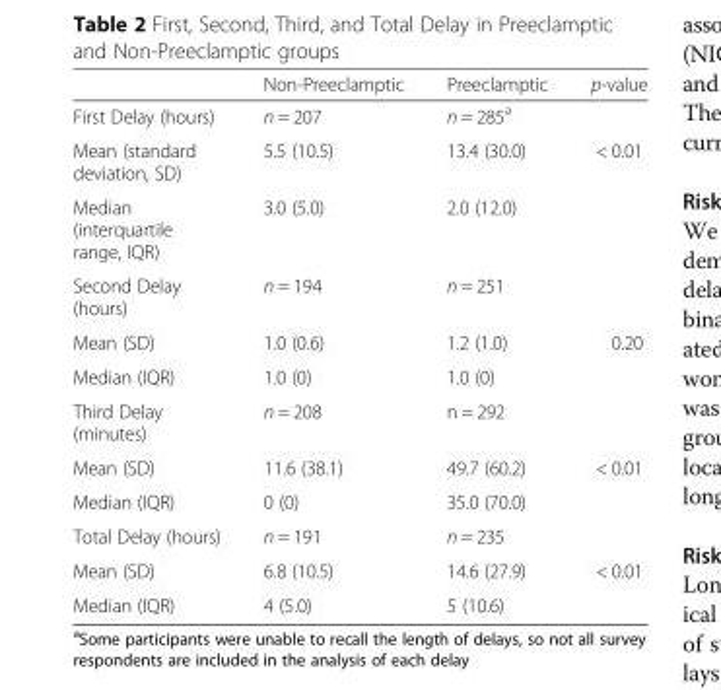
<table><thead><tr><td></td><td>Non-Preeclamptic</td><td>Preeclamptic</td><td>p-value</td></tr></thead><tbody><tr><td>First Delay (hours)</td><td>n = 207</td><td>n = 285<sup>a</sup></td><td></td></tr><tr><td>Mean (standard deviation, SD)</td><td>5.5 (10.5)</td><td>13.4 (30.0)</td><td>&lt; 0.01</td></tr><tr><td>Median (interquartile range, IQR)</td><td>3.0 (5.0)</td><td>2.0 (12.0)</td><td></td></tr><tr><td>Second Delay (hours)</td><td>n = 194</td><td>n = 251</td><td></td></tr><tr><td>Mean (SD)</td><td>1.0 (0.6)</td><td>1.2 (1.0)</td><td>0.20</td></tr><tr><td>Median (IQR)</td><td>1.0 (0)</td><td>1.0 (0)</td><td></td></tr><tr><td>Third Delay (minutes)</td><td>n = 208</td><td>n = 292</td><td></td></tr><tr><td>Mean (SD)</td><td>11.6 (38.1)</td><td>49.7 (60.2)</td><td>&lt; 0.01</td></tr><tr><td>Median (IQR)</td><td>0 (0)</td><td>35.0 (70.0)</td><td></td></tr><tr><td>Total Delay (hours)</td><td>n = 191</td><td>n = 235</td><td></td></tr><tr><td>Mean (SD)</td><td>6.8 (10.5)</td><td>14.6 (27.9)</td><td>&lt; 0.01</td></tr><tr><td>Median (IQR)</td><td>4 (5.0)</td><td>5 (10.6)</td><td></td></tr></tbody></table>